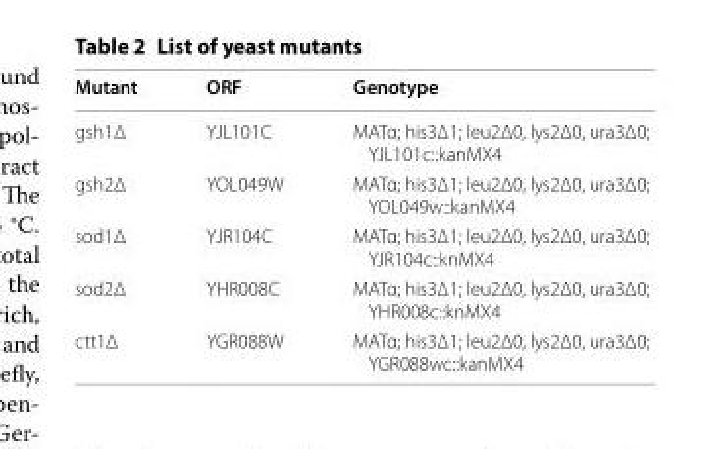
<table><thead><tr><td>Mutant</td><td>ORF</td><td>Genotype</td></tr></thead><tbody><tr><td>gsh1Δ</td><td>YJL101C</td><td>MATα; his3Δ1; leu2Δ0, lys2Δ0, ura3Δ0; YJL101c::kanMX4</td></tr><tr><td>gsh2Δ</td><td>YOL049W</td><td>MATα; his3Δ1; leu2Δ0, lys2Δ0, ura3Δ0; YOL049w::kanMX4</td></tr><tr><td>sod1Δ</td><td>YJR104C</td><td>MATα; his3Δ1; leu2Δ0, lys2Δ0, ura3Δ0; YJR104c::knMX4</td></tr><tr><td>sod2Δ</td><td>YHR008C</td><td>MATα; his3Δ1; leu2Δ0, lys2Δ0, ura3Δ0; YHR008c::knMX4</td></tr><tr><td>ctt1Δ</td><td>YGR088W</td><td>MATα; his3Δ1; leu2Δ0, lys2Δ0, ura3Δ0; YGR088wc::kanMX4</td></tr></tbody></table>